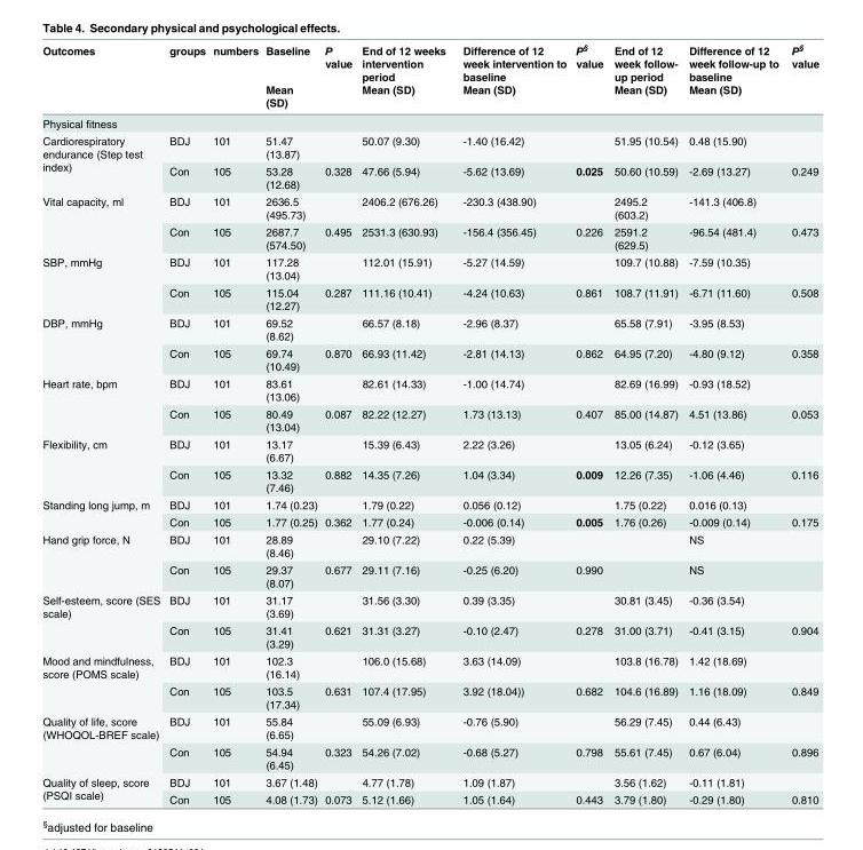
<table><thead><tr><td rowspan="2">Outcomes</td><td rowspan="2">groups</td><td rowspan="2">numbers</td><td rowspan="2">Baseline Mean (SD)</td><td rowspan="2">P value</td><td rowspan="2">End of 12 weeks intervention period Mean (SD)</td><td rowspan="2">Difference of 12 week intervention to baseline Mean (SD)</td><td rowspan="2">P<sup>§</sup> value</td><td rowspan="2">End of 12 week follow- up period Mean (SD)</td><td rowspan="2">Difference of 12 week follow-up to baseline Mean (SD)</td><td rowspan="2">P<sup>§</sup> value</td></tr><tr></tr></thead><tbody><tr><td colspan="11">Physical fitness</td></tr><tr><td rowspan="2">Cardiorespiratory endurance (Step test index)</td><td>BDJ</td><td>101</td><td>51.47 (13.87)</td><td></td><td>50.07 (9.30)</td><td>-1.40 (16.42)</td><td></td><td>51.95 (10.54)</td><td>0.48 (15.90)</td><td></td></tr><tr><td>Con</td><td>105</td><td>53.28 (12.68)</td><td>0.328</td><td>47.66 (5.94)</td><td>-5.62 (13.69)</td><td>0.025</td><td>50.60 (10.59)</td><td>-2.69 (13.27)</td><td>0.249</td></tr><tr><td rowspan="2">Vital capacity, ml</td><td>BDJ</td><td>101</td><td>2636.5 (495.73)</td><td></td><td>2406.2 (676.26)</td><td>-230.3 (438.90)</td><td></td><td>2495.2 (603.2)</td><td>-141.3 (406.8)</td><td></td></tr><tr><td>Con</td><td>105</td><td>2687.7 (574.50)</td><td>0.495</td><td>2531.3 (630.93)</td><td>-156.4 (356.45)</td><td>0.226</td><td>2591.2 (629.5)</td><td>-96.54 (481.4)</td><td>0.473</td></tr><tr><td rowspan="2">SBP, mmHg</td><td>BDJ</td><td>101</td><td>117.28 (13.04)</td><td></td><td>112.01 (15.91)</td><td>-5.27 (14.59)</td><td></td><td>109.7 (10.88)</td><td>-7.59 (10.35)</td><td></td></tr><tr><td>Con</td><td>105</td><td>115.04 (12.27)</td><td>0.287</td><td>111.16 (10.41)</td><td>-4.24 (10.63)</td><td>0.861</td><td>108.7 (11.91)</td><td>-6.71 (11.60)</td><td>0.508</td></tr><tr><td rowspan="2">DBP, mmHg</td><td>BDJ</td><td>101</td><td>69.52 (8.62)</td><td></td><td>66.57 (8.18)</td><td>-2.96 (8.37)</td><td></td><td>65.58 (7.91)</td><td>-3.95 (8.53)</td><td></td></tr><tr><td>Con</td><td>105</td><td>69.74 (10.49)</td><td>0.870</td><td>66.93 (11.42)</td><td>-2.81 (14.13)</td><td>0.862</td><td>64.95 (7.20)</td><td>-4.80 (9.12)</td><td>0.358</td></tr><tr><td rowspan="2">Heart rate, bpm</td><td>BDJ</td><td>101</td><td>83.61 (13.06)</td><td></td><td>82.61 (14.33)</td><td>-1.00 (14.74)</td><td></td><td>82.69 (16.99)</td><td>-0.93 (18.52)</td><td></td></tr><tr><td>Con</td><td>105</td><td>80.49 (13.04)</td><td>0.087</td><td>82.22 (12.27)</td><td>1.73 (13.13)</td><td>0.407</td><td>85.00 (14.87)</td><td>4.51 (13.86)</td><td>0.053</td></tr><tr><td rowspan="2">Flexibility, cm</td><td>BDJ</td><td>101</td><td>13.17 (6.67)</td><td></td><td>15.39 (6.43)</td><td>2.22 (3.26)</td><td></td><td>13.05 (6.24)</td><td>-0.12 (3.65)</td><td></td></tr><tr><td>Con</td><td>105</td><td>13.32 (7.46)</td><td>0.882</td><td>14.35 (7.26)</td><td>1.04 (3.34)</td><td>0.009</td><td>12.26 (7.35)</td><td>-1.06 (4.46)</td><td>0.116</td></tr><tr><td rowspan="2">Standing long jump, m</td><td>BDJ</td><td>101</td><td>1.74 (0.23)</td><td></td><td>1.79 (0.22)</td><td>0.056 (0.12)</td><td></td><td>1.75 (0.22)</td><td>0.016 (0.13)</td><td></td></tr><tr><td>Con</td><td>105</td><td>1.77 (0.25)</td><td>0.362</td><td>1.77 (0.24)</td><td>-0.006 (0.14)</td><td>0.005</td><td>1.76 (0.26)</td><td>-0.009 (0.14)</td><td>0.175</td></tr><tr><td rowspan="2">Hand grip force, N</td><td>BDJ</td><td>101</td><td>28.89 (8.46)</td><td></td><td>29.10 (7.22)</td><td>0.22 (5.39)</td><td></td><td></td><td>NS</td><td></td></tr><tr><td>Con</td><td>105</td><td>29.37 (8.07)</td><td>0.677</td><td>29.11 (7.16)</td><td>-0.25 (6.20)</td><td>0.990</td><td></td><td>NS</td><td></td></tr><tr><td rowspan="2">Self-esteem, score (SES scale)</td><td>BDJ</td><td>101</td><td>31.17 (3.69)</td><td></td><td>31.56 (3.30)</td><td>0.39 (3.35)</td><td></td><td>30.81 (3.45)</td><td>-0.36 (3.54)</td><td></td></tr><tr><td>Con</td><td>105</td><td>31.41 (3.29)</td><td>0.621</td><td>31.31 (3.27)</td><td>-0.10 (2.47)</td><td>0.278</td><td>31.00 (3.71)</td><td>-0.41 (3.15)</td><td>0.904</td></tr><tr><td rowspan="2">Mood and mindfulness, score (POMS scale)</td><td>BDJ</td><td>101</td><td>102.3 (16.14)</td><td></td><td>106.0 (15.68)</td><td>3.63 (14.09)</td><td></td><td>103.8 (16.78)</td><td>1.42 (18.69)</td><td></td></tr><tr><td>Con</td><td>105</td><td>103.5 (17.34)</td><td>0.631</td><td>107.4 (17.95)</td><td>3.92 (18.04))</td><td>0.682</td><td>104.6 (16.89)</td><td>1.16 (18.09)</td><td>0.849</td></tr><tr><td rowspan="2">Quality of life, score (WHOQOL-BREF scale)</td><td>BDJ</td><td>101</td><td>55.84 (6.65)</td><td></td><td>55.09 (6.93)</td><td>-0.76 (5.90)</td><td></td><td>56.29 (7.45)</td><td>0.44 (6.43)</td><td></td></tr><tr><td>Con</td><td>105</td><td>54.94 (6.45)</td><td>0.323</td><td>54.26 (7.02)</td><td>-0.68 (5.27)</td><td>0.798</td><td>55.61 (7.45)</td><td>0.67 (6.04)</td><td>0.896</td></tr><tr><td rowspan="2">Quality of sleep, score (PSQI scale)</td><td>BDJ</td><td>101</td><td>3.67 (1.48)</td><td></td><td>4.77 (1.78)</td><td>1.09 (1.87)</td><td></td><td>3.56 (1.62)</td><td>-0.11 (1.81)</td><td></td></tr><tr><td>Con</td><td>105</td><td>4.08 (1.73)</td><td>0.073</td><td>5.12 (1.66)</td><td>1.05 (1.64)</td><td>0.443</td><td>3.79 (1.80)</td><td>-0.29 (1.80)</td><td>0.810</td></tr></tbody></table>